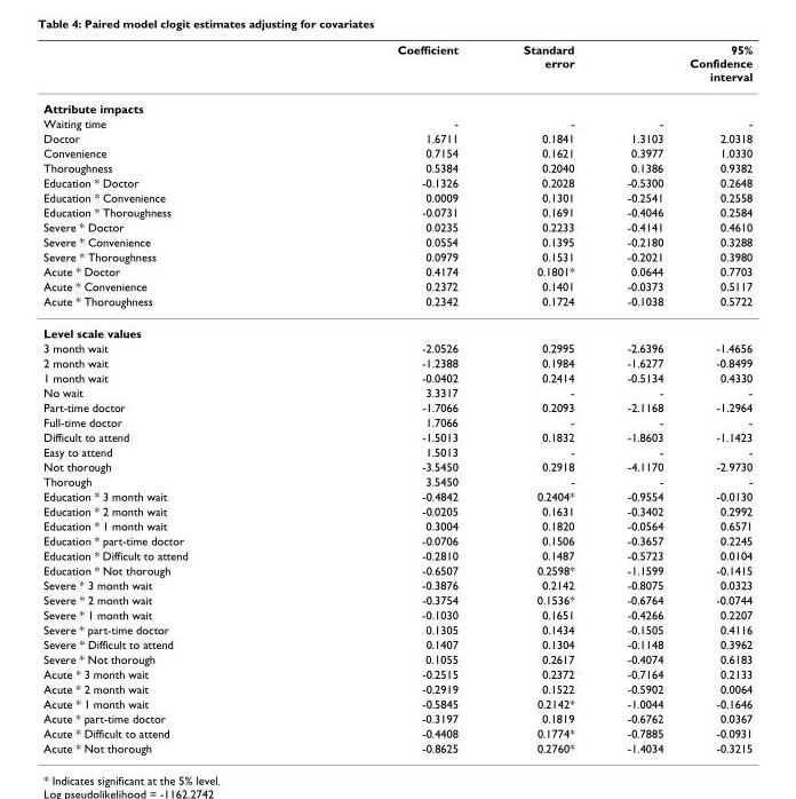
<table><thead><tr><td rowspan="2">Attribute impacts</td><td rowspan="2">Coefficient</td><td rowspan="2">Standard error</td><td colspan="2">95% Confidence interval</td></tr><tr><td></td><td></td></tr></thead><tbody><tr><td>Waiting time</td><td>-</td><td>-</td><td>-</td><td>-</td></tr><tr><td>Doctor</td><td>1.6711</td><td>0.1841</td><td>1.3103</td><td>2.0318</td></tr><tr><td>Convenience</td><td>0.7154</td><td>0.1621</td><td>0.3977</td><td>1.0330</td></tr><tr><td>Thoroughness</td><td>0.5384</td><td>0.2040</td><td>0.1386</td><td>0.9382</td></tr><tr><td>Education * Doctor</td><td>-0.1326</td><td>0.2028</td><td>-0.5300</td><td>0.2648</td></tr><tr><td>Education * Convenience</td><td>0.0009</td><td>0.1301</td><td>-0.2541</td><td>0.2558</td></tr><tr><td>Education * Thoroughness</td><td>-0.0731</td><td>0.1691</td><td>-0.4046</td><td>0.2584</td></tr><tr><td>Severe * Doctor</td><td>0.0235</td><td>0.2233</td><td>-0.4141</td><td>0.4610</td></tr><tr><td>Severe * Convenience</td><td>0.0554</td><td>0.1395</td><td>-0.2180</td><td>0.3288</td></tr><tr><td>Severe * Thoroughness</td><td>0.0979</td><td>0.1531</td><td>-0.2021</td><td>0.3980</td></tr><tr><td>Acute * Doctor</td><td>0.4174</td><td>0.1801*</td><td>0.0644</td><td>0.7703</td></tr><tr><td>Acute * Convenience</td><td>0.2372</td><td>0.1401</td><td>-0.0373</td><td>0.5117</td></tr><tr><td>Acute * Thoroughness</td><td>0.2342</td><td>0.1724</td><td>-0.1038</td><td>0.5722</td></tr><tr><td colspan="5">Level scale values</td></tr><tr><td>3 month wait</td><td>-2.0526</td><td>0.2995</td><td>-2.6396</td><td>-1.4656</td></tr><tr><td>2 month wait</td><td>-1.2388</td><td>0.1984</td><td>-1.6277</td><td>-0.8499</td></tr><tr><td>1 month wait</td><td>-0.0402</td><td>0.2414</td><td>-0.5134</td><td>0.4330</td></tr><tr><td>No wait</td><td>3.3317</td><td>-</td><td>-</td><td>-</td></tr><tr><td>Part-time doctor</td><td>-1.7066</td><td>0.2093</td><td>-2.1168</td><td>-1.2964</td></tr><tr><td>Full-time doctor</td><td>1.7066</td><td>-</td><td>-</td><td>-</td></tr><tr><td>Difficult to attend</td><td>-1.5013</td><td>0.1832</td><td>-1.8603</td><td>-1.1423</td></tr><tr><td>Easy to attend</td><td>1.5013</td><td>-</td><td>-</td><td>-</td></tr><tr><td>Not thorough</td><td>-3.5450</td><td>0.2918</td><td>-4.1170</td><td>-2.9730</td></tr><tr><td>Thorough</td><td>3.5450</td><td>-</td><td>-</td><td>-</td></tr><tr><td>Education * 3 month wait</td><td>-0.4842</td><td>0.2404*</td><td>-0.9554</td><td>-0.0130</td></tr><tr><td>Education * 2 month wait</td><td>-0.0205</td><td>0.1631</td><td>-0.3402</td><td>0.2992</td></tr><tr><td>Education * 1 month wait</td><td>0.3004</td><td>0.1820</td><td>-0.0564</td><td>0.6571</td></tr><tr><td>Education * part-time doctor</td><td>-0.0706</td><td>0.1506</td><td>-0.3657</td><td>0.2245</td></tr><tr><td>Education * Difficult to attend</td><td>-0.2810</td><td>0.1487</td><td>-0.5723</td><td>0.0104</td></tr><tr><td>Education * Not thorough</td><td>-0.6507</td><td>0.2598*</td><td>-1.1599</td><td>-0.1415</td></tr><tr><td>Severe * 3 month wait</td><td>-0.3876</td><td>0.2142</td><td>-0.8075</td><td>0.0323</td></tr><tr><td>Severe * 2 month wait</td><td>-0.3754</td><td>0.1536*</td><td>-0.6764</td><td>-0.0744</td></tr><tr><td>Severe * 1 month wait</td><td>-0.1030</td><td>0.1651</td><td>-0.4266</td><td>0.2207</td></tr><tr><td>Severe * part-time doctor</td><td>0.1305</td><td>0.1434</td><td>-0.1505</td><td>0.4116</td></tr><tr><td>Severe * Difficult to attend</td><td>0.1407</td><td>0.1304</td><td>-0.1148</td><td>0.3962</td></tr><tr><td>Severe * Not thorough</td><td>0.1055</td><td>0.2617</td><td>-0.4074</td><td>0.6183</td></tr><tr><td>Acute * 3 month wait</td><td>-0.2515</td><td>0.2372</td><td>-0.7164</td><td>0.2133</td></tr><tr><td>Acute * 2 month wait</td><td>-0.2919</td><td>0.1522</td><td>-0.5902</td><td>0.0064</td></tr><tr><td>Acute * 1 month wait</td><td>-0.5845</td><td>0.2142*</td><td>-1.0044</td><td>-0.1646</td></tr><tr><td>Acute * part-time doctor</td><td>-0.3197</td><td>0.1819</td><td>-0.6762</td><td>0.0367</td></tr><tr><td>Acute * Difficult to attend</td><td>-0.4408</td><td>0.1774*</td><td>-0.7885</td><td>-0.0931</td></tr><tr><td>Acute * Not thorough</td><td>-0.8625</td><td>0.2760*</td><td>-1.4034</td><td>-0.3215</td></tr></tbody></table>